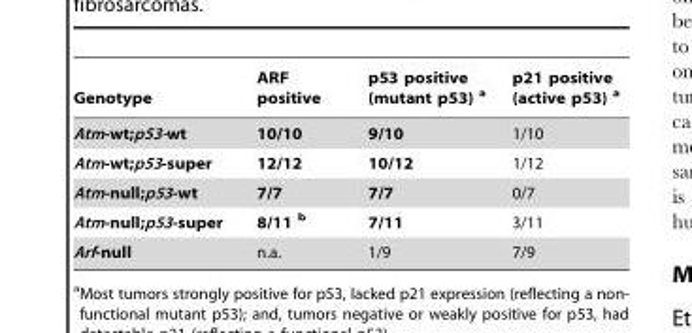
<table><thead><tr><td>Genotype</td><td>ARF positive</td><td>p53 positive (mutant p53) a</td><td>p21 positive (active p53) a</td></tr></thead><tbody><tr><td>Atm-wt;p53-wt</td><td>10/10</td><td>9/10</td><td>1/10</td></tr><tr><td>Atm-wt;p53-super</td><td>12/12</td><td>10/12</td><td>1/12</td></tr><tr><td>Atm-null;p53-wt</td><td>7/7</td><td>7/7</td><td>0/7</td></tr><tr><td>Atm-null;p53-super</td><td>8/11 b</td><td>7/11</td><td>3/11</td></tr><tr><td>Arf-null</td><td>n.a.</td><td>1/9</td><td>7/9</td></tr></tbody></table>